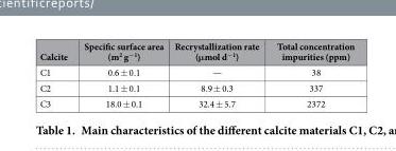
<table><thead><tr><td>Calcite</td><td>Specific surface area (m<sup>2</sup> g<sup>−1</sup>)</td><td>Recrystallization rate (μmol d<sup>−1</sup>)</td><td>Total concentration impurities (ppm)</td></tr></thead><tbody><tr><td>C1</td><td>0.6 ± 0.1</td><td>—</td><td>38</td></tr><tr><td>C2</td><td>1.1 ± 0.1</td><td>8.9 ± 0.3</td><td>337</td></tr><tr><td>C3</td><td>18.0 ± 0.1</td><td>32.4 ± 5.7</td><td>2372</td></tr></tbody></table>